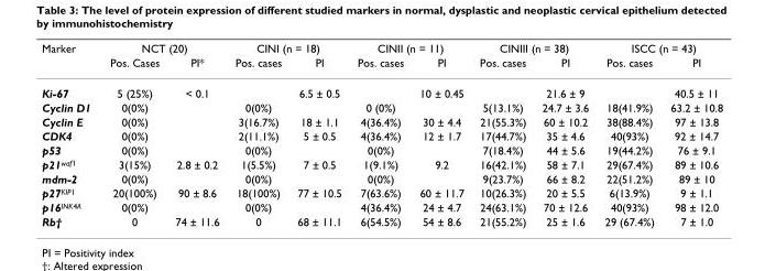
<table><thead><tr><td rowspan="2">Marker</td><td colspan="2">NCT (20)</td><td colspan="2">CINI (n = 18)</td><td colspan="2">CINII (n = 11)</td><td colspan="2">CINIII (n = 38)</td><td colspan="2">ISCC (n = 43)</td></tr><tr><td>Pos. Cases</td><td>PI*</td><td>Pos. cases</td><td>PI</td><td>Pos. cases</td><td>PI</td><td>Pos. cases</td><td>PI</td><td>Pos. cases</td><td>PI</td></tr></thead><tbody><tr><td>Ki-67</td><td>5 (25%)</td><td>&lt; 0.1</td><td></td><td>6.5 ± 0.5</td><td></td><td>10 ± 0.45</td><td></td><td>21.6 ± 9</td><td></td><td>40.5 ± 11</td></tr><tr><td>Cyclin D1</td><td>0(0%)</td><td></td><td>0(0%)</td><td></td><td>0 (0%)</td><td></td><td>5(13.1%)</td><td>24.7 ± 3.6</td><td>18(41.9%)</td><td>63.2 ± 10.8</td></tr><tr><td>Cyclin E</td><td>0(0%)</td><td></td><td>3(16.7%)</td><td>18 ± 1.1</td><td>4(36.4%)</td><td>30 ± 4.4</td><td>21(55.3%)</td><td>60 ± 10.2</td><td>38(88.4%)</td><td>97 ± 13.8</td></tr><tr><td>CDK4</td><td>0(0%)</td><td></td><td>2(11.1%)</td><td>5 ± 0.5</td><td>4(36.4%)</td><td>12 ± 1.7</td><td>17(44.7%)</td><td>35 ± 4.6</td><td>40(93%)</td><td>92 ± 14.7</td></tr><tr><td>p53</td><td>0(0%)</td><td></td><td>0(0%)</td><td></td><td>0(0%)</td><td></td><td>7(18.4%)</td><td>44 ± 5.6</td><td>19(44.2%)</td><td>76 ± 9.1</td></tr><tr><td>p21waf1</td><td>3(15%)</td><td>2.8 ± 0.2</td><td>1(5.5%)</td><td>7 ± 0.5</td><td>1(9.1%)</td><td>9.2</td><td>16(42.1%)</td><td>58 ± 7.1</td><td>29(67.4%)</td><td>89 ± 10.6</td></tr><tr><td>mdm-2</td><td>0(0%)</td><td></td><td>0(0%)</td><td></td><td>0(0%)</td><td></td><td>9(23.7%)</td><td>66 ± 8.2</td><td>22(51.2%)</td><td>89 ± 10</td></tr><tr><td>p27KIP1</td><td>20(100%)</td><td>90 ± 8.6</td><td>18(100%)</td><td>77 ± 10.5</td><td>7(63.6%)</td><td>60 ± 11.7</td><td>10(26.3%)</td><td>20 ± 5.5</td><td>6(13.9%)</td><td>9 ± 1.1</td></tr><tr><td>p16INK4A</td><td>0(0%)</td><td></td><td>0(0%)</td><td></td><td>4(36.4%)</td><td>24 ± 4.7</td><td>24(63.1%)</td><td>70 ± 12.6</td><td>40(93%)</td><td>98 ± 12.0</td></tr><tr><td>Rb†</td><td>0</td><td>74 ± 11.6</td><td>0</td><td>68 ± 11.1</td><td>6(54.5%)</td><td>54 ± 8.6</td><td>21(55.2%)</td><td>25 ± 1.6</td><td>29 (67.4%)</td><td>7 ± 1.0</td></tr></tbody></table>